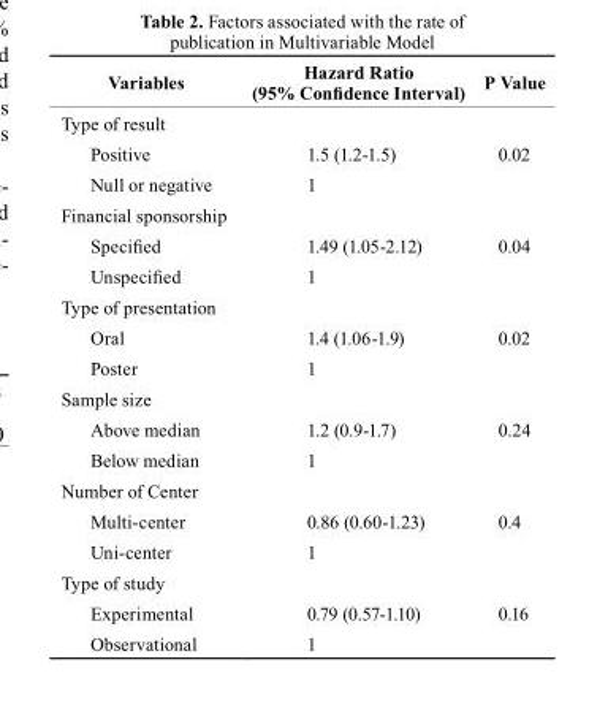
<table><thead><tr><td>Variables</td><td>Hazard ratio (95% confidence Interval)</td><td>P Value</td></tr></thead><tbody><tr><td colspan="3">Type of result</td></tr><tr><td>Positive</td><td>1.5 (1.2-1.5)</td><td>0.02</td></tr><tr><td>Null or negative</td><td>1</td><td></td></tr><tr><td colspan="3">Financial sponsorship</td></tr><tr><td>Specified</td><td>1.49 (1.05-2.12)</td><td>0.04</td></tr><tr><td>Unspecified</td><td>1</td><td></td></tr><tr><td colspan="3">Type of presentation</td></tr><tr><td>Oral</td><td>1.4 (1.06-1.9)</td><td>0.02</td></tr><tr><td>Poster</td><td>1</td><td></td></tr><tr><td colspan="3">Sample size</td></tr><tr><td>Above median</td><td>1.2 (0.9-1.7)</td><td>0.24</td></tr><tr><td>Below median</td><td>1</td><td></td></tr><tr><td colspan="3">Number of Center</td></tr><tr><td>Multi-center</td><td>0.86 (0.60-1.23)</td><td>0.4</td></tr><tr><td>Uni-center</td><td>1</td><td></td></tr><tr><td colspan="3">Type of study</td></tr><tr><td>Experimental</td><td>0.79 (0.57-1.10)</td><td>0.16</td></tr><tr><td>Observational</td><td>1</td><td></td></tr></tbody></table>